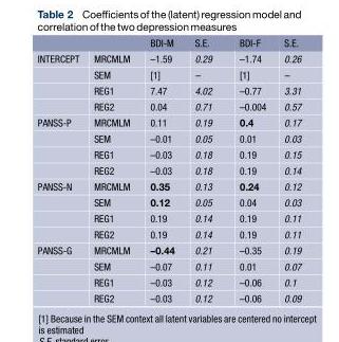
<table><thead><tr><td></td><td></td><td>BDI-M</td><td>S.E.</td><td>BDI-F</td><td>S.E.</td></tr></thead><tbody><tr><td rowspan="4">INTERCEPT</td><td>MRCMLM</td><td>–1.59</td><td>0.29</td><td>–1.74</td><td>0.26</td></tr><tr><td>SEM</td><td>[1]</td><td>–</td><td>[1]</td><td>–</td></tr><tr><td>REG1</td><td>7.47</td><td>4.02</td><td>–0.77</td><td>3.31</td></tr><tr><td>REG2</td><td>0.04</td><td>0.71</td><td>–0.004</td><td>0.57</td></tr><tr><td rowspan="4">PANSS-P</td><td>MRCMLM</td><td>0.11</td><td>0.19</td><td>0.4</td><td>0.17</td></tr><tr><td>SEM</td><td>–0.01</td><td>0.05</td><td>0.01</td><td>0.03</td></tr><tr><td>REG1</td><td>–0.03</td><td>0.18</td><td>0.19</td><td>0.15</td></tr><tr><td>REG2</td><td>–0.03</td><td>0.18</td><td>0.19</td><td>0.14</td></tr><tr><td rowspan="4">PANSS-N</td><td>MRCMLM</td><td>0.35</td><td>0.13</td><td>0.24</td><td>0.12</td></tr><tr><td>SEM</td><td>0.12</td><td>0.05</td><td>0.04</td><td>0.03</td></tr><tr><td>REG1</td><td>0.19</td><td>0.14</td><td>0.19</td><td>0.11</td></tr><tr><td>REG2</td><td>0.19</td><td>0.14</td><td>0.19</td><td>0.11</td></tr><tr><td rowspan="4">PANSS-G</td><td>MRCMLM</td><td>–0.44</td><td>0.21</td><td>–0.35</td><td>0.19</td></tr><tr><td>SEM</td><td>–0.07</td><td>0.11</td><td>0.01</td><td>0.07</td></tr><tr><td>REG1</td><td>–0.03</td><td>0.12</td><td>–0.06</td><td>0.1</td></tr><tr><td>REG2</td><td>–0.03</td><td>0.12</td><td>–0.06</td><td>0.09</td></tr></tbody></table>